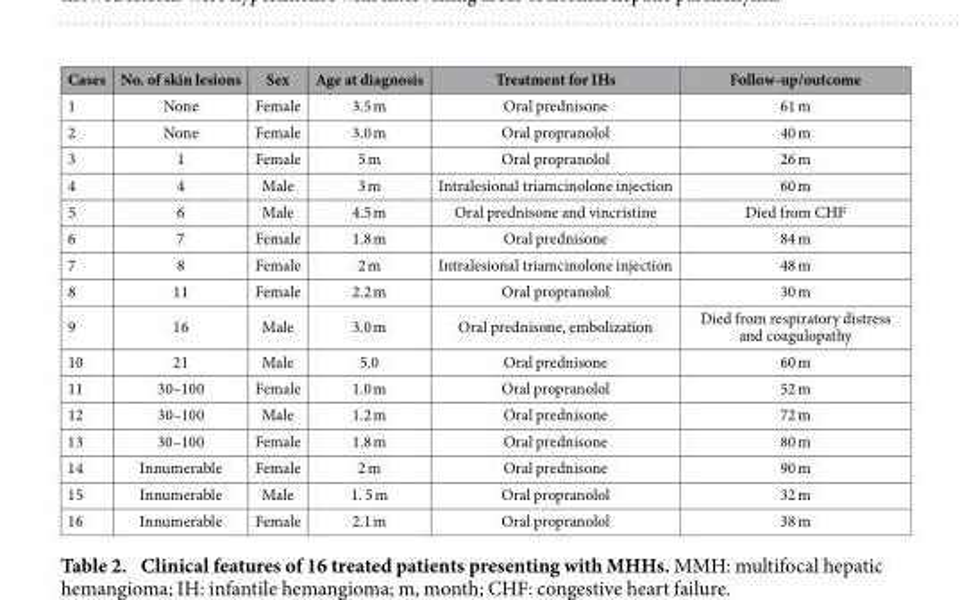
<table><thead><tr><td>Cases</td><td>No. of skin lesions</td><td>Sex</td><td>Age at diagnosis</td><td>Treatment for IHs</td><td>Follow-up/outcome</td></tr></thead><tbody><tr><td>1</td><td>None</td><td>Female</td><td>3.5 m</td><td>Oral prednisone</td><td>61 m</td></tr><tr><td>2</td><td>None</td><td>Female</td><td>3.0 m</td><td>Oral propranolol</td><td>40 m</td></tr><tr><td>3</td><td>1</td><td>Female</td><td>5 m</td><td>Oral propranolol</td><td>26 m</td></tr><tr><td>4</td><td>4</td><td>Male</td><td>3 m</td><td>Intralesional triamcinolone injection</td><td>60 m</td></tr><tr><td>5</td><td>6</td><td>Male</td><td>4.5 m</td><td>Oral prednisone and vincristine</td><td>Died from CHF</td></tr><tr><td>6</td><td>7</td><td>Female</td><td>1.8 m</td><td>Oral prednisone</td><td>84 m</td></tr><tr><td>7</td><td>8</td><td>Female</td><td>2 m</td><td>Intralesional triamcinolone injection</td><td>48 m</td></tr><tr><td>8</td><td>11</td><td>Female</td><td>2.2 m</td><td>Oral propranolol</td><td>30 m</td></tr><tr><td>9</td><td>16</td><td>Male</td><td>3.0 m</td><td>Oral prednisone, embolization</td><td>Died from respiratory distress and coagulopathy</td></tr><tr><td>10</td><td>21</td><td>Male</td><td>5.0</td><td>Oral prednisone</td><td>60 m</td></tr><tr><td>11</td><td>30–100</td><td>Female</td><td>1.0 m</td><td>Oral propranolol</td><td>52 m</td></tr><tr><td>12</td><td>30–100</td><td>Male</td><td>1.2 m</td><td>Oral prednisone</td><td>72 m</td></tr><tr><td>13</td><td>30–100</td><td>Female</td><td>1.8 m</td><td>Oral prednisone</td><td>80 m</td></tr><tr><td>14</td><td>Innumerable</td><td>Female</td><td>2 m</td><td>Oral prednisone</td><td>90 m</td></tr><tr><td>15</td><td>Innumerable</td><td>Male</td><td>1. 5 m</td><td>Oral propranolol</td><td>32 m</td></tr><tr><td>16</td><td>Innumerable</td><td>Female</td><td>2.1 m</td><td>Oral propranolol</td><td>38 m</td></tr></tbody></table>